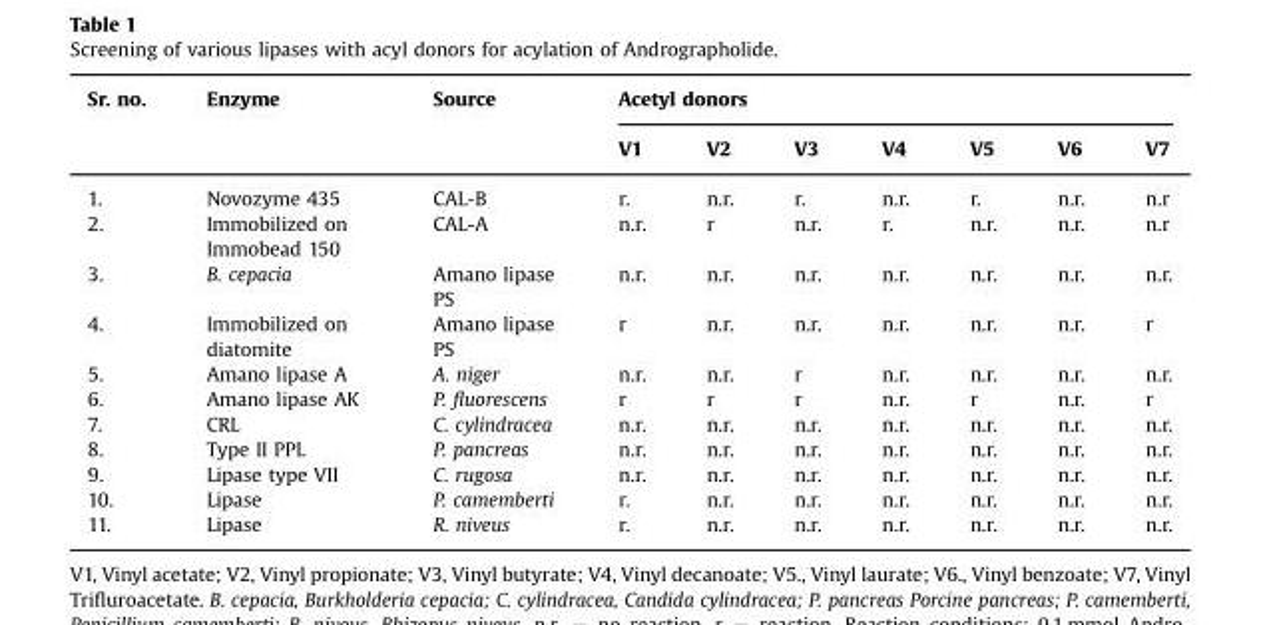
<table><thead><tr><td rowspan="2">Sr. no.</td><td rowspan="2">Enzyme</td><td rowspan="2">Source</td><td colspan="7">Acetyl donors</td></tr><tr><td>V1</td><td>V2</td><td>V3</td><td>V4</td><td>V5</td><td>V6</td><td>V7</td></tr></thead><tbody><tr><td>1.</td><td>Novozyme 435</td><td>CAL-B</td><td>r.</td><td>n.r.</td><td>r.</td><td>n.r.</td><td>r.</td><td>n.r.</td><td>n.r</td></tr><tr><td rowspan="2">2.</td><td>Immobilized on</td><td rowspan="2">CAL-A</td><td rowspan="2">n.r.</td><td rowspan="2">r</td><td rowspan="2">n.r.</td><td rowspan="2">r.</td><td rowspan="2">n.r.</td><td rowspan="2">n.r.</td><td rowspan="2">n.r</td></tr><tr><td>Immobead 150</td></tr><tr><td>3.</td><td>B. cepacia</td><td>Amano lipase PS</td><td>n.r.</td><td>n.r.</td><td>n.r.</td><td>n.r.</td><td>n.r.</td><td>n.r.</td><td>n.r.</td></tr><tr><td>4.</td><td>Immobilized on diatomite</td><td>Amano lipase PS</td><td>r</td><td>n.r.</td><td>n.r.</td><td>n.r.</td><td>n.r.</td><td>n.r.</td><td>r</td></tr><tr><td>5.</td><td>Amano lipase A</td><td>A. niger</td><td>n.r.</td><td>n.r.</td><td>r</td><td>n.r.</td><td>n.r.</td><td>n.r.</td><td>n.r.</td></tr><tr><td>6.</td><td>Amano lipase AK</td><td>P. fluorescens</td><td>r</td><td>r</td><td>r</td><td>n.r.</td><td>r</td><td>n.r.</td><td>r</td></tr><tr><td>7.</td><td>CRL</td><td>C. cylindracea</td><td>n.r.</td><td>n.r.</td><td>n.r.</td><td>n.r.</td><td>n.r.</td><td>n.r.</td><td>n.r.</td></tr><tr><td>8.</td><td>Type II PPL</td><td>P. pancreas</td><td>n.r.</td><td>n.r.</td><td>n.r.</td><td>n.r.</td><td>n.r.</td><td>n.r.</td><td>n.r.</td></tr><tr><td>9.</td><td>Lipase type VII</td><td>C. rugosa</td><td>n.r.</td><td>n.r.</td><td>n.r.</td><td>n.r.</td><td>n.r.</td><td>n.r.</td><td>n.r.</td></tr><tr><td>10.</td><td>Lipase</td><td>P. camemberti</td><td>r.</td><td>n.r.</td><td>n.r.</td><td>n.r.</td><td>n.r.</td><td>n.r.</td><td>n.r.</td></tr><tr><td>11.</td><td>Lipase</td><td>R. niveus</td><td>r.</td><td>n.r.</td><td>n.r.</td><td>n.r.</td><td>n.r.</td><td>n.r.</td><td>n.r.</td></tr></tbody></table>